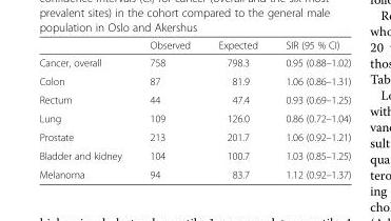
<table><thead><tr><td></td><td>Observed</td><td>Expected</td><td>SIR (95 % CI)</td></tr></thead><tbody><tr><td>Cancer, overall</td><td>758</td><td>798.3</td><td>0.95 (0.88–1.02)</td></tr><tr><td>Colon</td><td>87</td><td>81.9</td><td>1.06 (0.86–1.31)</td></tr><tr><td>Rectum</td><td>44</td><td>47.4</td><td>0.93 (0.69–1.25)</td></tr><tr><td>Lung</td><td>109</td><td>126.0</td><td>0.86 (0.72–1.04)</td></tr><tr><td>Prostate</td><td>213</td><td>201.7</td><td>1.06 (0.92–1.21)</td></tr><tr><td>Bladder and kidney</td><td>104</td><td>100.7</td><td>1.03 (0.85–1.25)</td></tr><tr><td>Melanoma</td><td>94</td><td>83.7</td><td>1.12 (0.92–1.37)</td></tr></tbody></table>